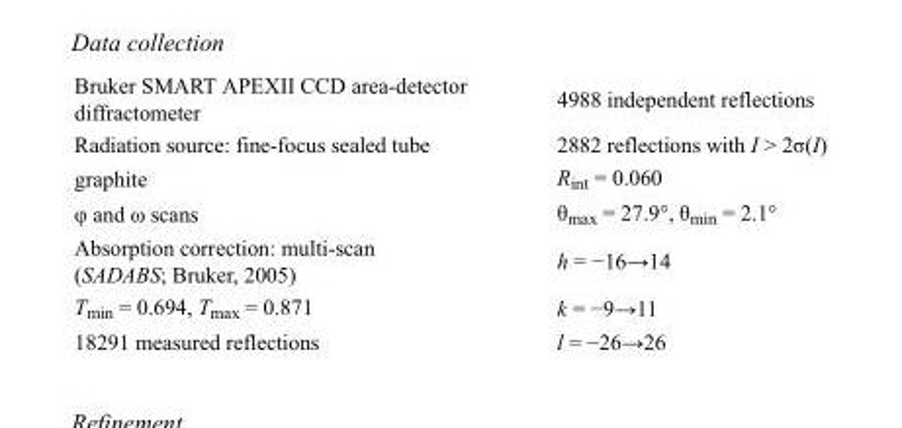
<table><tbody><tr><td>Bruker SMART APEXII CCD area-detector diffractometer</td><td>4988 independent reflections</td></tr><tr><td>Radiation source: fine-focus sealed tube</td><td>2882 reflections with I &gt; 2σ(I)</td></tr><tr><td>graphite</td><td>R<sub>int</sub> = 0.060</td></tr><tr><td>φ and ω scans</td><td>θ<sub>max</sub> = 27.9°, θ<sub>min</sub> = 2.1°</td></tr><tr><td>Absorption correction: multi-scan (SADABS; Bruker, 2005)</td><td>h = −16→14</td></tr><tr><td>T<sub>min</sub> = 0.694, T<sub>max</sub> = 0.871</td><td>k = −9→11</td></tr><tr><td>18291 measured reflections</td><td>l = −26→26</td></tr></tbody></table>